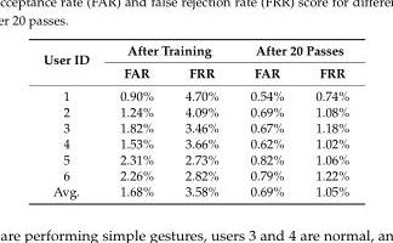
<table><thead><tr><td rowspan="2">User ID</td><td colspan="2">After Training</td><td colspan="2">After 20 Passes</td></tr><tr><td>FAR</td><td>FRR</td><td>FAR</td><td>FRR</td></tr></thead><tbody><tr><td>1</td><td>0.90%</td><td>4.70%</td><td>0.54%</td><td>0.74%</td></tr><tr><td>2</td><td>1.24%</td><td>4.09%</td><td>0.69%</td><td>1.08%</td></tr><tr><td>3</td><td>1.82%</td><td>3.46%</td><td>0.67%</td><td>1.18%</td></tr><tr><td>4</td><td>1.53%</td><td>3.66%</td><td>0.62%</td><td>1.02%</td></tr><tr><td>5</td><td>2.31%</td><td>2.73%</td><td>0.82%</td><td>1.06%</td></tr><tr><td>6</td><td>2.26%</td><td>2.82%</td><td>0.79%</td><td>1.22%</td></tr><tr><td>Avg.</td><td>1.68%</td><td>3.58%</td><td>0.69%</td><td>1.05%</td></tr></tbody></table>